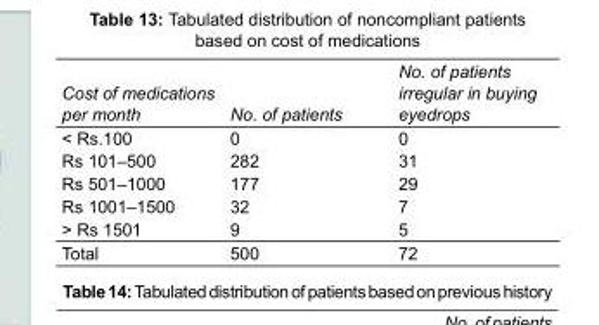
<table><tbody><tr><td>Cost of medications per month</td><td>No. of patients</td><td>No. of patients irregular in buying eyedrops</td></tr><tr><td>&lt; Rs.100</td><td>0</td><td>0</td></tr><tr><td>Rs 101–500</td><td>282</td><td>31</td></tr><tr><td>Rs 501–1000</td><td>177</td><td>29</td></tr><tr><td>Rs 1001–1500</td><td>32</td><td>7</td></tr><tr><td>&gt; Rs 1501</td><td>9</td><td>5</td></tr><tr><td>Total</td><td>500</td><td>72</td></tr></tbody></table>